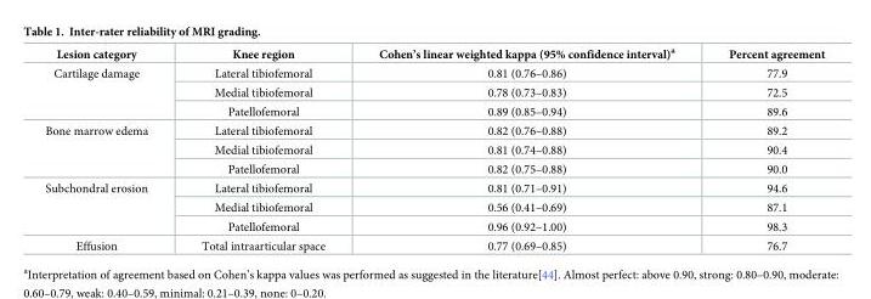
<table><thead><tr><td>Lesion category</td><td>Knee region</td><td>Cohen’s linear weighted kappa (95% confidence interval)<sup>a</sup></td><td>Percent agreement</td></tr></thead><tbody><tr><td rowspan="3">Cartilage damage</td><td>Lateral tibiofemoral</td><td>0.81 (0.76–0.86)</td><td>77.9</td></tr><tr><td>Medial tibiofemoral</td><td>0.78 (0.73–0.83)</td><td>72.5</td></tr><tr><td>Patellofemoral</td><td>0.89 (0.85–0.94)</td><td>89.6</td></tr><tr><td rowspan="3">Bone marrow edema</td><td>Lateral tibiofemoral</td><td>0.82 (0.76–0.88)</td><td>89.2</td></tr><tr><td>Medial tibiofemoral</td><td>0.81 (0.74–0.88)</td><td>90.4</td></tr><tr><td>Patellofemoral</td><td>0.82 (0.75–0.88)</td><td>90.0</td></tr><tr><td rowspan="3">Subchondral erosion</td><td>Lateral tibiofemoral</td><td>0.81 (0.71–0.91)</td><td>94.6</td></tr><tr><td>Medial tibiofemoral</td><td>0.56 (0.41–0.69)</td><td>87.1</td></tr><tr><td>Patellofemoral</td><td>0.96 (0.92–1.00)</td><td>98.3</td></tr><tr><td>Effusion</td><td>Total intraarticular space</td><td>0.77 (0.69–0.85)</td><td>76.7</td></tr></tbody></table>